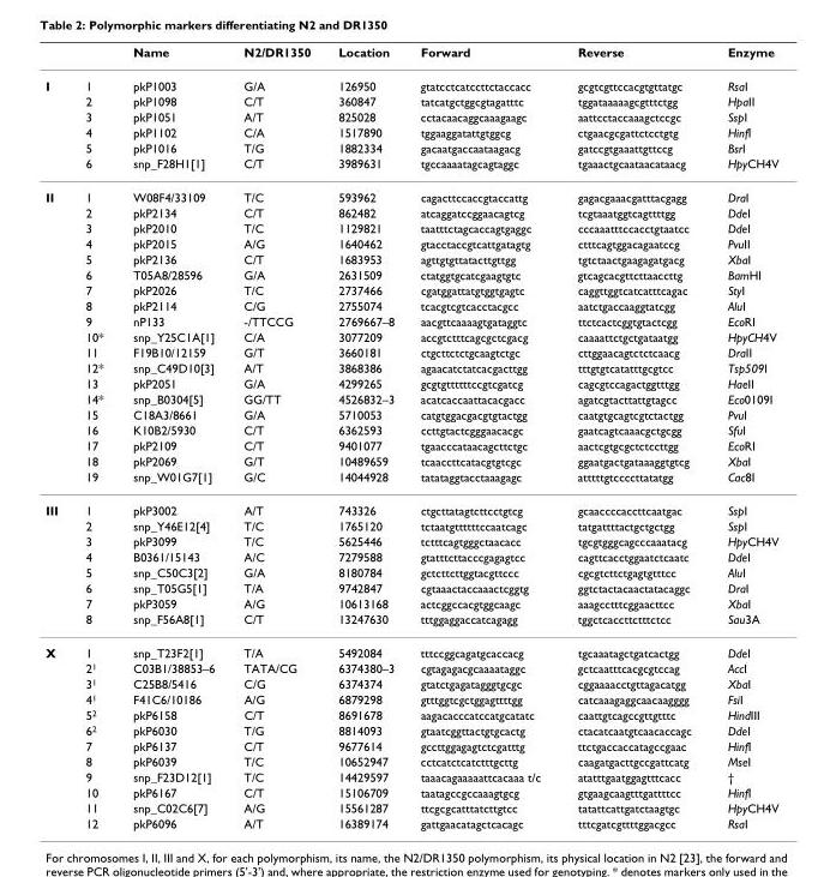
<table><thead><tr><td></td><td></td><td>Name</td><td>N2/DR1350</td><td>Location</td><td>Forward</td><td>Reverse</td><td>Enzyme</td></tr></thead><tbody><tr><td rowspan="6">I</td><td>1</td><td>pkP1003</td><td>G/A</td><td>126950</td><td>gtatcctcatccttctaccacc</td><td>gcgtcgttccacgtgttatgc</td><td>RsaI</td></tr><tr><td>2</td><td>pkP1098</td><td>C/T</td><td>360847</td><td>tatcatgctggcgtagatttc</td><td>tggataaaaagcgtttctgg</td><td>HpaII</td></tr><tr><td>3</td><td>pkP1051</td><td>A/T</td><td>825028</td><td>cctacaacaggcaaagaagc</td><td>aattcctaccaaagctccgc</td><td>SspI</td></tr><tr><td>4</td><td>pkP1102</td><td>C/A</td><td>1517890</td><td>tggaaggatattgtggcg</td><td>ctgaacgcgattctcctgtg</td><td>HinfI</td></tr><tr><td>5</td><td>pkP1016</td><td>T/G</td><td>1882334</td><td>gacaatgaccaataagacg</td><td>gatccgtgaaattgttccg</td><td>BsrI</td></tr><tr><td>6</td><td>snp_F28H1[1]</td><td>C/T</td><td>3989631</td><td>tgccaaaatagcagtaggc</td><td>tgaaactgcaataacataacg</td><td>HpyCH4V</td></tr><tr><td rowspan="19">II</td><td>1</td><td>W08F4/33109</td><td>T/C</td><td>593962</td><td>cagacttccaccgtaccattg</td><td>gagacgaaacgatttacgagg</td><td>DraI</td></tr><tr><td>2</td><td>pkP2134</td><td>C/T</td><td>862482</td><td>atcaggatccggaacagtcg</td><td>tcgtaaatggtcagttttgg</td><td>DdeI</td></tr><tr><td>3</td><td>pkP2010</td><td>T/C</td><td>1129821</td><td>taatttctagcaccagtgaggc</td><td>cccaaatttccacctgtaatcc</td><td>DdeI</td></tr><tr><td>4</td><td>pkP2015</td><td>A/G</td><td>1640462</td><td>gtacctaccgtcattgatagtg</td><td>ctttcagtggacagaatccg</td><td>PvuII</td></tr><tr><td>5</td><td>pkP2136</td><td>C/T</td><td>1683953</td><td>agttgtgttatacttgttgg</td><td>tgtctaactgaagagatgacg</td><td>XbaI</td></tr><tr><td>6</td><td>T05A8/28596</td><td>G/A</td><td>2631509</td><td>ctatggtgcatcgaagtgtc</td><td>gtcagcacgttcttaaccttg</td><td>BamHI</td></tr><tr><td>7</td><td>pkP2026</td><td>T/C</td><td>2737466</td><td>cgatggattatgtggtgagtc</td><td>caggttggtcatcatttcagac</td><td>StyI</td></tr><tr><td>8</td><td>pkP2114</td><td>C/G</td><td>2755074</td><td>tcacgtcgtcacctacgcc</td><td>aatctgaccaaggtatcgg</td><td>AluI</td></tr><tr><td>9</td><td>nP133</td><td>-/TTCCG</td><td>2769667–8</td><td>aacgttcaaaagtgataggtc</td><td>ttctcactcggtgtactcgg</td><td>EcoRI</td></tr><tr><td>10*</td><td>snp_Y25C1A[1]</td><td>C/A</td><td>3077209</td><td>accgtctttcagcgctcgacg</td><td>caaaattctgctgataatgg</td><td>HpyCH4V</td></tr><tr><td>11</td><td>F19B10/12159</td><td>G/T</td><td>3660181</td><td>ctgcttctctgcaagtctgc</td><td>cttggaacagtctctcaacg</td><td>DraII</td></tr><tr><td>12*</td><td>snp_C49D10[3]</td><td>A/T</td><td>3868386</td><td>agaacatctatcacgacttgg</td><td>tttgtgtcatatttgcgtcc</td><td>Tsp509I</td></tr><tr><td>13</td><td>pkP2051</td><td>G/A</td><td>4299265</td><td>gcgtgttttttccgtcgatcg</td><td>cagcgtccagactggtttgg</td><td>HaeII</td></tr><tr><td>14*</td><td>snp_B0304[5]</td><td>GG/TT</td><td>4526832–3</td><td>acatcaccaattacacgacc</td><td>agatcgtacttattgtagcc</td><td>Eco0109I</td></tr><tr><td>15</td><td>C18A3/8661</td><td>G/A</td><td>5710053</td><td>catgtggacgacgtgtactgg</td><td>caatgtgcagtcgtctactgg</td><td>PvuI</td></tr><tr><td>16</td><td>K10B2/5930</td><td>C/T</td><td>6362593</td><td>ccttgtactcgggaacacgc</td><td>gaatcagtcaaacgctgcgg</td><td>SfuI</td></tr><tr><td>17</td><td>pkP2109</td><td>C/T</td><td>9401077</td><td>tgaacccataacagcttctgc</td><td>aactcgtgcgctctccttgg</td><td>EcoRI</td></tr><tr><td>18</td><td>pkP2069</td><td>G/T</td><td>10489659</td><td>tcaaccttcatacgtgtcgc</td><td>ggaatgactgataaaggtgtcg</td><td>XbaI</td></tr><tr><td>19</td><td>snp_W01G7[1]</td><td>G/C</td><td>14044928</td><td>tatataggtacctaaagagc</td><td>atttttgtccccttatatgg</td><td>Cac8I</td></tr><tr><td rowspan="8">III</td><td>1</td><td>pkP3002</td><td>A/T</td><td>743326</td><td>ctgcttatagtcttcctgtcg</td><td>gcaaccccaccttcaatgac</td><td>SspI</td></tr><tr><td>2</td><td>snp_Y46E12[4]</td><td>T/C</td><td>1765120</td><td>tctaatgttttttccaatcagc</td><td>tatgattttactgctgctgg</td><td>SspI</td></tr><tr><td>3</td><td>pkP3099</td><td>T/C</td><td>5625446</td><td>tctttcagtgggctaacacc</td><td>tgcgtgggcagcccaaatacg</td><td>HpyCH4V</td></tr><tr><td>4</td><td>B0361/15143</td><td>A/C</td><td>7279588</td><td>gtatttcttacccgagagtcc</td><td>cagttcacctggaatctcaatc</td><td>DdeI</td></tr><tr><td>5</td><td>snp_C50C3[2]</td><td>G/A</td><td>8180784</td><td>gctcttcttggtacgttccc</td><td>cgcgtcttctgagtgtttcc</td><td>AluI</td></tr><tr><td>6</td><td>snp_T05G5[1]</td><td>T/A</td><td>9742847</td><td>cgtaaactaccaaactcggtg</td><td>ggtctactacaactatacaggc</td><td>DraI</td></tr><tr><td>7</td><td>pkP3059</td><td>A/G</td><td>10613168</td><td>actcggccacgtggcaagc</td><td>aaagcctttcggaacttcc</td><td>XbaI</td></tr><tr><td>8</td><td>snp_F56A8[1]</td><td>C/T</td><td>13247630</td><td>tttggaggaccatcagagg</td><td>tggctcaccttctttctcc</td><td>Sau3A</td></tr><tr><td rowspan="12">X</td><td>1</td><td>snp_T23F2[1]</td><td>T/A</td><td>5492084</td><td>tttccggcagatgcaccacg</td><td>tgcaaatagctgatcactgg</td><td>DdeI</td></tr><tr><td>2<sup>1</sup></td><td>C03B1/38853–6</td><td>TATA/CG</td><td>6374380–3</td><td>cgtagagacgcaaaataggc</td><td>gctcaatttcacgcgtccag</td><td>AccI</td></tr><tr><td>3<sup>1</sup></td><td>C25B8/5416</td><td>C/G</td><td>6374374</td><td>gtatctgagatagggtgcgc</td><td>cggaaaacctgttagacatgg</td><td>XbaI</td></tr><tr><td>4<sup>1</sup></td><td>F41C6/10186</td><td>A/G</td><td>6879298</td><td>gtttggtcgctggagttttgg</td><td>catcaaagaggcaacaagggg</td><td>FsiI</td></tr><tr><td>5<sup>2</sup></td><td>pkP6158</td><td>C/T</td><td>8691678</td><td>aagacacccatccatgcatatc</td><td>caattgtcagccgttgtttc</td><td>HindIII</td></tr><tr><td>6<sup>2</sup></td><td>pkP6030</td><td>T/G</td><td>8814093</td><td>gtaatcggttactgtgcactg</td><td>ctacatcaatgtcaacaccagc</td><td>DdeI</td></tr><tr><td>7</td><td>pkP6137</td><td>C/T</td><td>9677614</td><td>gccttggagagtctcgatttg</td><td>ttctgaccaccatagccgaac</td><td>HinfI</td></tr><tr><td>8</td><td>pkP6039</td><td>T/C</td><td>10652947</td><td>cctcatctcatctttgcttg</td><td>caagatgacttgccgattcatg</td><td>MseI</td></tr><tr><td>9</td><td>snp_F23D12[1]</td><td>T/C</td><td>14429597</td><td>taaacagaaaaattcacaaa t/c</td><td>atatttgaatggagtttcacc</td><td>†</td></tr><tr><td>10</td><td>pkP6167</td><td>C/T</td><td>15106709</td><td>taatagccgccaaagtgcg</td><td>gtgaagcaagtttgattttcc</td><td>HinfI</td></tr><tr><td>11</td><td>snp_C02C6[7]</td><td>A/G</td><td>15561287</td><td>ttcgcgcatttatcttgtcc</td><td>tatattcattgatctaagtgc</td><td>HpyCH4V</td></tr><tr><td>12</td><td>pkP6096</td><td>A/T</td><td>16389174</td><td>gattgaacatagctcacagc</td><td>tttcgatcgttttggacgcc</td><td>RsaI</td></tr></tbody></table>